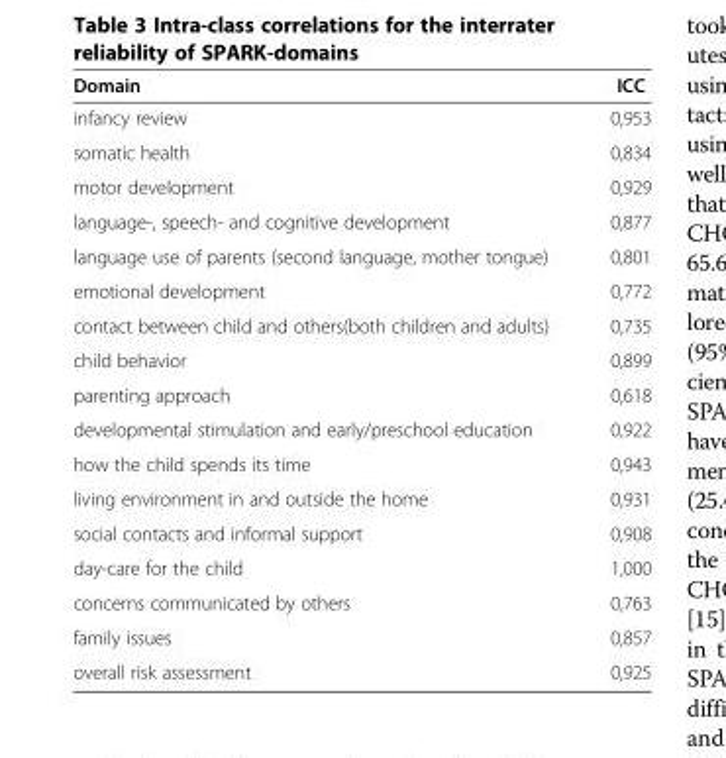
<table><thead><tr><td>Domain</td><td>ICC</td></tr></thead><tbody><tr><td>infancy review</td><td>0,953</td></tr><tr><td>somatic health</td><td>0,834</td></tr><tr><td>motor development</td><td>0,929</td></tr><tr><td>language-, speech- and cognitive development</td><td>0,877</td></tr><tr><td>language use of parents (second language, mother tongue)</td><td>0,801</td></tr><tr><td>emotional development</td><td>0,772</td></tr><tr><td>contact between child and others(both children and adults)</td><td>0,735</td></tr><tr><td>child behavior</td><td>0,899</td></tr><tr><td>parenting approach</td><td>0,618</td></tr><tr><td>developmental stimulation and early/preschool education</td><td>0,922</td></tr><tr><td>how the child spends its time</td><td>0,943</td></tr><tr><td>living environment in and outside the home</td><td>0,931</td></tr><tr><td>social contacts and informal support</td><td>0,908</td></tr><tr><td>day-care for the child</td><td>1,000</td></tr><tr><td>concerns communicated by others</td><td>0,763</td></tr><tr><td>family issues</td><td>0,857</td></tr><tr><td>overall risk assessment</td><td>0,925</td></tr></tbody></table>